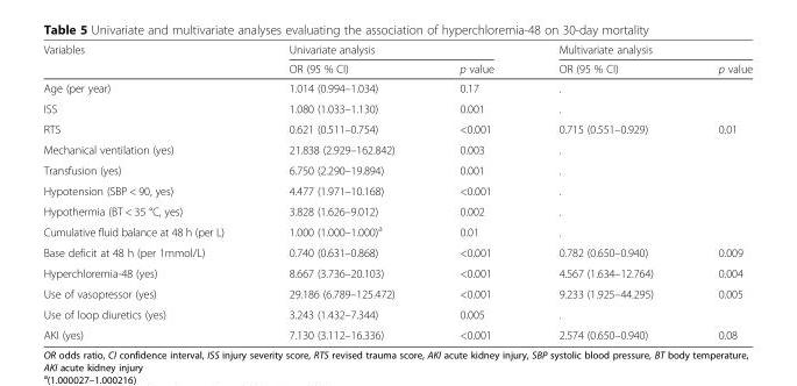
<table><thead><tr><td rowspan="2">Variables</td><td colspan="2">Univariate analysis</td><td colspan="2">Multivariate analysis</td></tr><tr><td>OR (95 % CI)</td><td>p value</td><td>OR (95 % CI)</td><td>p value</td></tr></thead><tbody><tr><td>Age (per year)</td><td>1.014 (0.994–1.034)</td><td>0.17</td><td>.</td><td></td></tr><tr><td>ISS</td><td>1.080 (1.033–1.130)</td><td>0.001</td><td>.</td><td></td></tr><tr><td>RTS</td><td>0.621 (0.511–0.754)</td><td>&lt;0.001</td><td>0.715 (0.551–0.929)</td><td>0.01</td></tr><tr><td>Mechanical ventilation (yes)</td><td>21.838 (2.929–162.842)</td><td>0.003</td><td>.</td><td></td></tr><tr><td>Transfusion (yes)</td><td>6.750 (2.290–19.894)</td><td>0.001</td><td>.</td><td></td></tr><tr><td>Hypotension (SBP &lt; 90, yes)</td><td>4.477 (1.971–10.168)</td><td>&lt;0.001</td><td>.</td><td></td></tr><tr><td>Hypothermia (BT &lt; 35 °C, yes)</td><td>3.828 (1.626–9.012)</td><td>0.002</td><td>.</td><td></td></tr><tr><td>Cumulative fluid balance at 48 h (per L)</td><td>1.000 (1.000–1.000)<sup>a</sup></td><td>0.01</td><td>.</td><td></td></tr><tr><td>Base deficit at 48 h (per 1mmol/L)</td><td>0.740 (0.631–0.868)</td><td>&lt;0.001</td><td>0.782 (0.650–0.940)</td><td>0.009</td></tr><tr><td>Hyperchloremia-48 (yes)</td><td>8.667 (3.736–20.103)</td><td>&lt;0.001</td><td>4.567 (1.634–12.764)</td><td>0.004</td></tr><tr><td>Use of vasopressor (yes)</td><td>29.186 (6.789–125.472)</td><td>&lt;0.001</td><td>9.233 (1.925–44.295)</td><td>0.005</td></tr><tr><td>Use of loop diuretics (yes)</td><td>3.243 (1.432–7.344)</td><td>0.005</td><td>.</td><td></td></tr><tr><td>AKI (yes)</td><td>7.130 (3.112–16.336)</td><td>&lt;0.001</td><td>2.574 (0.650–0.940)</td><td>0.08</td></tr></tbody></table>